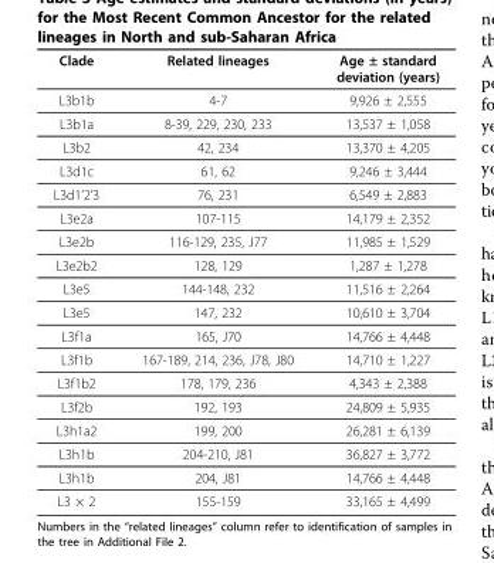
<table><thead><tr><td>Clade</td><td>Related lineages</td><td>Age ± standard deviation (years)</td></tr></thead><tbody><tr><td>L3b1b</td><td>4-7</td><td>9,926 ± 2,555</td></tr><tr><td>L3b1a</td><td>8-39, 229, 230, 233</td><td>13,537 ± 1,058</td></tr><tr><td>L3b2</td><td>42, 234</td><td>13,370 ± 4,205</td></tr><tr><td>L3d1c</td><td>61, 62</td><td>9,246 ± 3,444</td></tr><tr><td>L3d1’2’3</td><td>76, 231</td><td>6,549 ± 2,883</td></tr><tr><td>L3e2a</td><td>107-115</td><td>14,179 ± 2,352</td></tr><tr><td>L3e2b</td><td>116-129, 235, J77</td><td>11,985 ± 1,529</td></tr><tr><td>L3e2b2</td><td>128, 129</td><td>1,287 ± 1,278</td></tr><tr><td>L3e5</td><td>144-148, 232</td><td>11,516 ± 2,264</td></tr><tr><td>L3e5</td><td>147, 232</td><td>10,610 ± 3,704</td></tr><tr><td>L3f1a</td><td>165, J70</td><td>14,766 ± 4,448</td></tr><tr><td>L3f1b</td><td>167-189, 214, 236, J78, J80</td><td>14,710 ± 1,227</td></tr><tr><td>L3f1b2</td><td>178, 179, 236</td><td>4,343 ± 2,388</td></tr><tr><td>L3f2b</td><td>192, 193</td><td>24,809 ± 5,935</td></tr><tr><td>L3h1a2</td><td>199, 200</td><td>26,281 ± 6,139</td></tr><tr><td>L3h1b</td><td>204-210, J81</td><td>36,827 ± 3,772</td></tr><tr><td>L3h1b</td><td>204, J81</td><td>14,766 ± 4,448</td></tr><tr><td>L3 × 2</td><td>155-159</td><td>33,165 ± 4,499</td></tr></tbody></table>